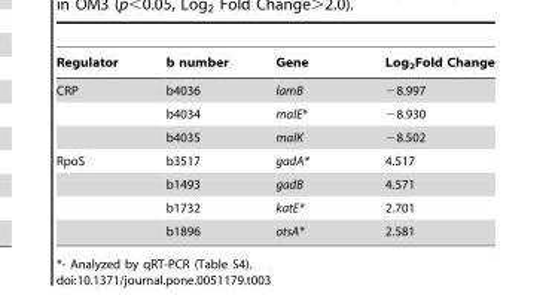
<table><thead><tr><td>Regulator</td><td>b number</td><td>Gene</td><td>Log<sub>2</sub>Fold Change</td></tr></thead><tbody><tr><td rowspan="3">CRP</td><td>b4036</td><td>lamB</td><td>−8.997</td></tr><tr><td>b4034</td><td>malE*</td><td>−8.930</td></tr><tr><td>b4035</td><td>malK</td><td>−8.502</td></tr><tr><td rowspan="4">RpoS</td><td>b3517</td><td>gadA*</td><td>4.517</td></tr><tr><td>b1493</td><td>gadB</td><td>4.571</td></tr><tr><td>b1732</td><td>katE*</td><td>2.701</td></tr><tr><td>b1896</td><td>otsA*</td><td>2.581</td></tr></tbody></table>